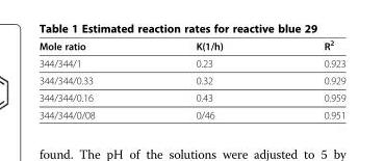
<table><thead><tr><td>Mole ratio</td><td>K(1/h)</td><td>R<sup>2</sup></td></tr></thead><tbody><tr><td>344/344/1</td><td>0.23</td><td>0.923</td></tr><tr><td>344/344/0.33</td><td>0.32</td><td>0.929</td></tr><tr><td>344/344/0.16</td><td>0.43</td><td>0.959</td></tr><tr><td>344/344/0/08</td><td>0/46</td><td>0.951</td></tr></tbody></table>